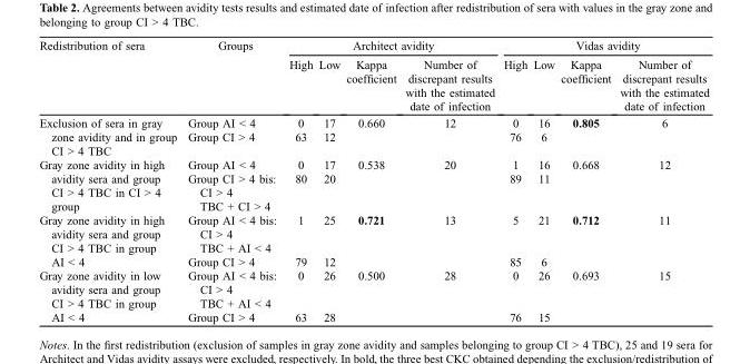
<table><thead><tr><td rowspan="2">Redistribution of sera</td><td rowspan="2">Groups</td><td colspan="4">Architect avidity</td><td colspan="4">Vidas avidity</td></tr><tr><td>High</td><td>Low</td><td>Kappa coefficient</td><td>Number of discrepant results with the estimated date of infection</td><td>High</td><td>Low</td><td>Kappa coefficient</td><td>Number of discrepant results with the estimated date of infection</td></tr></thead><tbody><tr><td rowspan="2">Exclusion of sera in gray zone avidity and in group CI &gt; 4 TBC</td><td>Group AI &lt; 4</td><td>0</td><td>17</td><td rowspan="2">0.660</td><td rowspan="2">12</td><td>0</td><td>16</td><td rowspan="2">0.805</td><td rowspan="2">6</td></tr><tr><td>Group CI &gt; 4</td><td>63</td><td>12</td><td>76</td><td>6</td></tr><tr><td rowspan="2">Gray zone avidity in high avidity sera and group CI &gt; 4 TBC in CI &gt; 4 group</td><td>Group AI &lt; 4</td><td>0</td><td>17</td><td rowspan="2">0.538</td><td rowspan="2">20</td><td>1</td><td>16</td><td rowspan="2">0.668</td><td rowspan="2">12</td></tr><tr><td>Group CI &gt; 4 bis: CI &gt; 4 TBC + CI &gt; 4</td><td>80</td><td>20</td><td>89</td><td>11</td></tr><tr><td rowspan="2">Gray zone avidity in high avidity sera and group CI &gt; 4 TBC in group AI &lt; 4</td><td>Group AI &lt; 4 bis: CI &gt; 4 TBC + AI &lt; 4</td><td>1</td><td>25</td><td rowspan="2">0.721</td><td rowspan="2">13</td><td>5</td><td>21</td><td rowspan="2">0.712</td><td rowspan="2">11</td></tr><tr><td>Group CI &gt; 4</td><td>79</td><td>12</td><td>85</td><td>6</td></tr><tr><td rowspan="2">Gray zone avidity in low avidity sera and group CI &gt; 4 TBC in group AI &lt; 4</td><td>Group AI &lt; 4 bis: CI &gt; 4 TBC + AI &lt; 4</td><td>0</td><td>26</td><td rowspan="2">0.500</td><td rowspan="2">28</td><td>0</td><td>26</td><td rowspan="2">0.693</td><td rowspan="2">15</td></tr><tr><td>Group CI &gt; 4</td><td>63</td><td>28</td><td>76</td><td>15</td></tr></tbody></table>